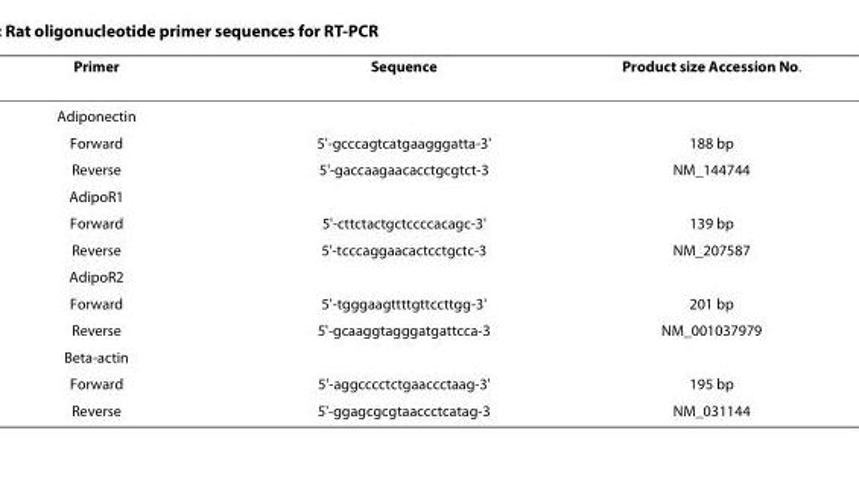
<table><thead><tr><td>Primer</td><td>Sequence</td><td>Product size Accession No.</td></tr></thead><tbody><tr><td colspan="3">Adiponectin</td></tr><tr><td>Forward</td><td>5&#x27;-gcccagtcatgaagggatta-3&#x27;</td><td>188 bp</td></tr><tr><td>Reverse</td><td>5&#x27;-gaccaagaacacctgcgtct-3</td><td>NM_144744</td></tr><tr><td colspan="3">AdipoR1</td></tr><tr><td>Forward</td><td>5&#x27;-cttctactgctccccacagc-3&#x27;</td><td>139 bp</td></tr><tr><td>Reverse</td><td>5&#x27;-tcccaggaacactcctgctc-3</td><td>NM_207587</td></tr><tr><td colspan="3">AdipoR2</td></tr><tr><td>Forward</td><td>5&#x27;-tgggaagttttgttccttgg-3&#x27;</td><td>201 bp</td></tr><tr><td>Reverse</td><td>5&#x27;-gcaaggtagggatgattcca-3</td><td>NM_001037979</td></tr><tr><td colspan="3">Beta-actin</td></tr><tr><td>Forward</td><td>5&#x27;-aggcccctctgaaccctaag-3&#x27;</td><td>195 bp</td></tr><tr><td>Reverse</td><td>5&#x27;-ggagcgcgtaaccctcatag-3</td><td>NM_031144</td></tr></tbody></table>